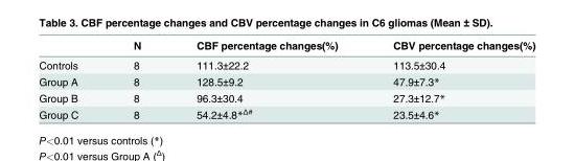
<table><thead><tr><td></td><td>N</td><td>CBF percentage changes(%)</td><td>CBV percentage changes(%)</td></tr></thead><tbody><tr><td>Controls</td><td>8</td><td>111.3±22.2</td><td>113.5±30.4</td></tr><tr><td>Group A</td><td>8</td><td>128.5±9.2</td><td>47.9±7.3*</td></tr><tr><td>Group B</td><td>8</td><td>96.3±30.4</td><td>27.3±12.7*</td></tr><tr><td>Group C</td><td>8</td><td>54.2±4.8*<sup>Δ#</sup></td><td>23.5±4.6*</td></tr></tbody></table>